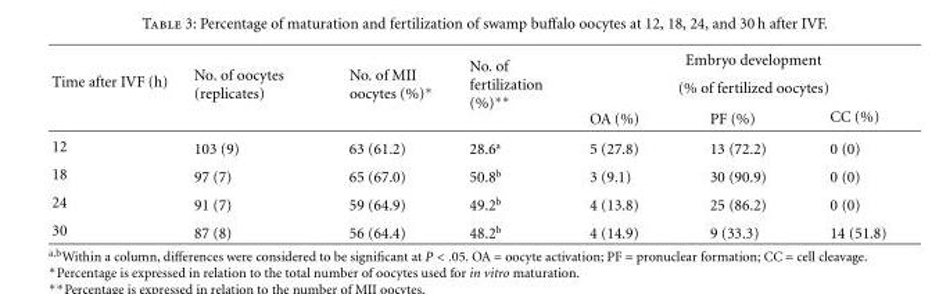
<table><thead><tr><td rowspan="3">Time after IVF (h)</td><td rowspan="3">No. of oocytes (replicates)</td><td rowspan="3">No. of MII oocytes (%)∗</td><td rowspan="3">No. of fertilization (%)∗∗</td><td rowspan="2" colspan="3">Embryo development (% of fertilized oocytes)</td></tr><tr></tr><tr><td>OA (%)</td><td>PF (%)</td><td>CC (%)</td></tr></thead><tbody><tr><td>12</td><td>103 (9)</td><td>63 (61.2)</td><td>28.6<sup>a</sup></td><td>5 (27.8)</td><td>13 (72.2)</td><td>0 (0)</td></tr><tr><td>18</td><td>97 (7)</td><td>65 (67.0)</td><td>50.8<sup>b</sup></td><td>3 (9.1)</td><td>30 (90.9)</td><td>0 (0)</td></tr><tr><td>24</td><td>91 (7)</td><td>59 (64.9)</td><td>49.2<sup>b</sup></td><td>4 (13.8)</td><td>25 (86.2)</td><td>0 (0)</td></tr><tr><td>30</td><td>87 (8)</td><td>56 (64.4)</td><td>48.2<sup>b</sup></td><td>4 (14.9)</td><td>9 (33.3)</td><td>14 (51.8)</td></tr></tbody></table>